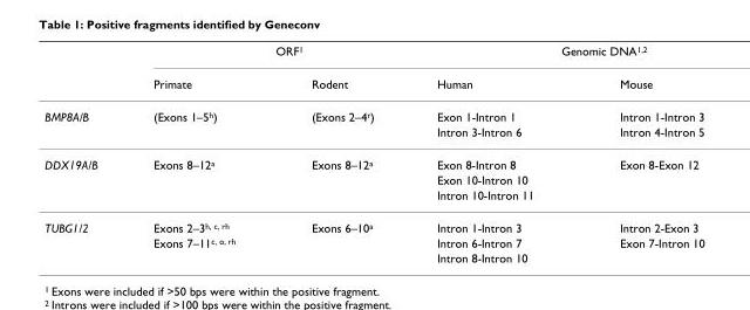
<table><thead><tr><td rowspan="2"></td><td colspan="2">ORF<sup>1</sup></td><td colspan="2">Genomic DNA<sup>1,2</sup></td></tr><tr><td>Primate</td><td>Rodent</td><td>Human</td><td>Mouse</td></tr></thead><tbody><tr><td rowspan="2">BMP8A/B</td><td>(Exons 1–5<sup>h</sup>)</td><td>(Exons 2–4<sup>r</sup>)</td><td>Exon 1-Intron 1</td><td>Intron 1-Intron 3</td></tr><tr><td></td><td></td><td>Intron 3-Intron 6</td><td>Intron 4-Intron 5</td></tr><tr><td rowspan="3">DDX19A/B</td><td>Exons 8–12<sup>a</sup></td><td>Exons 8–12<sup>a</sup></td><td>Exon 8-Intron 8</td><td>Exon 8-Exon 12</td></tr><tr><td></td><td></td><td>Exon 10-Intron 10</td><td></td></tr><tr><td></td><td></td><td>Intron 10-Intron 11</td><td></td></tr><tr><td rowspan="3">TUBG1/2</td><td>Exons 2–3<sup>h, c, rh</sup></td><td>Exons 6–10<sup>a</sup></td><td>Intron 1-Intron 3</td><td>Intron 2-Exon 3</td></tr><tr><td>Exons 7–11<sup>c, o, rh</sup></td><td></td><td>Intron 6-Intron 7</td><td>Exon 7-Intron 10</td></tr><tr><td></td><td></td><td>Intron 8-Intron 10</td><td></td></tr></tbody></table>